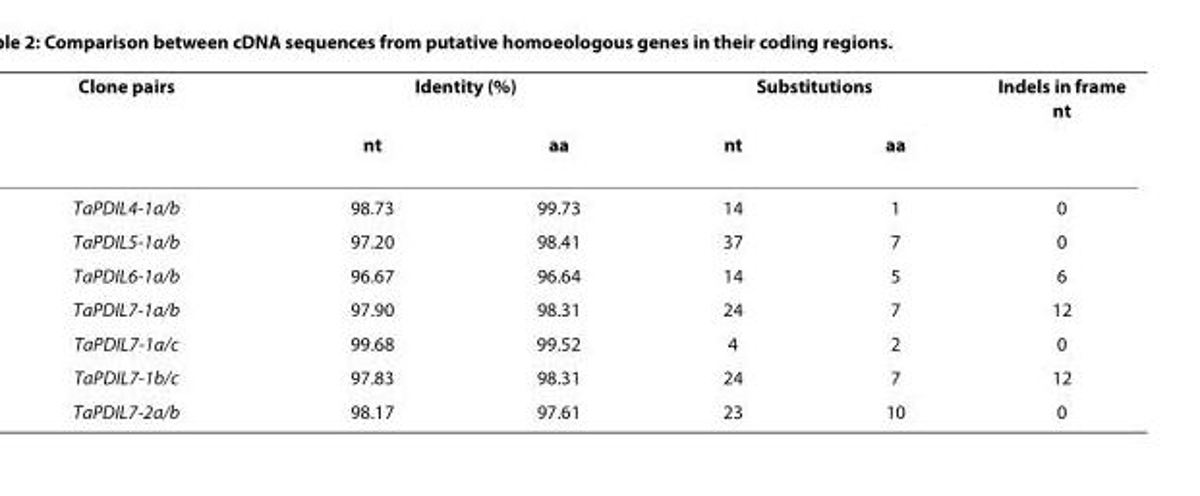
<table><thead><tr><td rowspan="2">Clone pairs</td><td colspan="2">Identity (%)</td><td colspan="2">Substitutions</td><td rowspan="2">Indels in frame nt</td></tr><tr><td>nt</td><td>aa</td><td>nt</td><td>aa</td></tr></thead><tbody><tr><td>TaPDIL4-1a/b</td><td>98.73</td><td>99.73</td><td>14</td><td>1</td><td>0</td></tr><tr><td>TaPDIL5-1a/b</td><td>97.20</td><td>98.41</td><td>37</td><td>7</td><td>0</td></tr><tr><td>TaPDIL6-1a/b</td><td>96.67</td><td>96.64</td><td>14</td><td>5</td><td>6</td></tr><tr><td>TaPDIL7-1a/b</td><td>97.90</td><td>98.31</td><td>24</td><td>7</td><td>12</td></tr><tr><td>TaPDIL7-1a/c</td><td>99.68</td><td>99.52</td><td>4</td><td>2</td><td>0</td></tr><tr><td>TaPDIL7-1b/c</td><td>97.83</td><td>98.31</td><td>24</td><td>7</td><td>12</td></tr><tr><td>TaPDIL7-2a/b</td><td>98.17</td><td>97.61</td><td>23</td><td>10</td><td>0</td></tr></tbody></table>